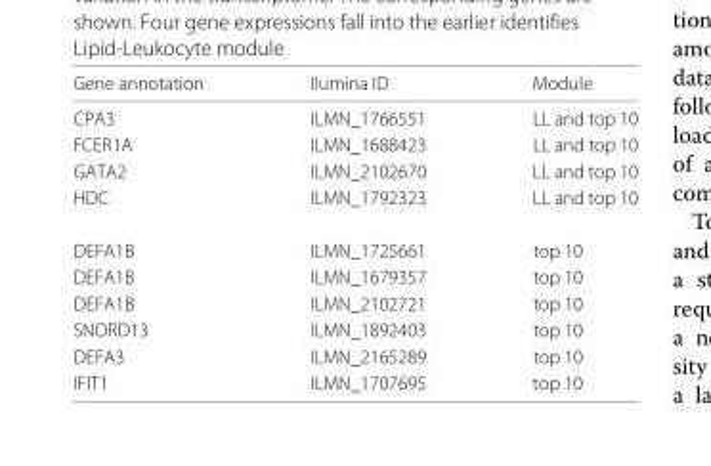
<table><thead><tr><td>Gene annotation</td><td>Ilumina ID</td><td>Module</td></tr></thead><tbody><tr><td>CPA3</td><td>ILMN_1766551</td><td>LL and top 10</td></tr><tr><td>FCER1A</td><td>ILMN_1688423</td><td>LL and top 10</td></tr><tr><td>GATA2</td><td>ILMN_2102670</td><td>LL and top 10</td></tr><tr><td>HDC</td><td>ILMN_1792323</td><td>LL and top 10</td></tr><tr><td>DEFA1B</td><td>ILMN_1725661</td><td>top 10</td></tr><tr><td>DEFA1B</td><td>ILMN_1679357</td><td>top 10</td></tr><tr><td>DEFA1B</td><td>ILMN_2102721</td><td>top 10</td></tr><tr><td>SNORD13</td><td>ILMN_1892403</td><td>top 10</td></tr><tr><td>DEFA3</td><td>ILMN_2165289</td><td>top 10</td></tr><tr><td>IFIT1</td><td>ILMN_1707695</td><td>top 10</td></tr></tbody></table>